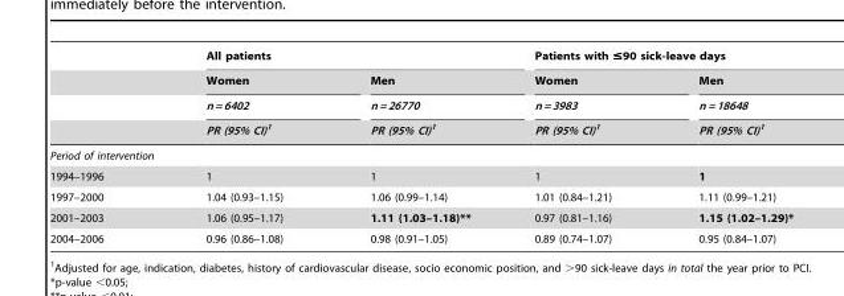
<table><thead><tr><td rowspan="4"></td><td colspan="2">All patients</td><td colspan="2">Patients with ≤90 sick-leave days</td></tr><tr><td rowspan="3">Women n = 6402 PR (95% CI)1</td><td rowspan="3">Men n = 26770 PR (95% CI)1</td><td rowspan="3">Women n = 3983 PR (95% CI)1</td><td rowspan="3">Men n = 18648 PR (95% CI)1</td></tr><tr></tr><tr></tr></thead><tbody><tr><td colspan="5">Period of intervention</td></tr><tr><td>1994–1996</td><td>1</td><td>1</td><td>1</td><td>1</td></tr><tr><td>1997–2000</td><td>1.04 (0.93–1.15)</td><td>1.06 (0.99–1.14)</td><td>1.01 (0.84–1.21)</td><td>1.11 (0.99–1.21)</td></tr><tr><td>2001–2003</td><td>1.06 (0.95–1.17)</td><td>1.11 (1.03–1.18)**</td><td>0.97 (0.81–1.16)</td><td>1.15 (1.02–1.29)*</td></tr><tr><td>2004–2006</td><td>0.96 (0.86–1.08)</td><td>0.98 (0.91–1.05)</td><td>0.89 (0.74–1.07)</td><td>0.95 (0.84–1.07)</td></tr></tbody></table>